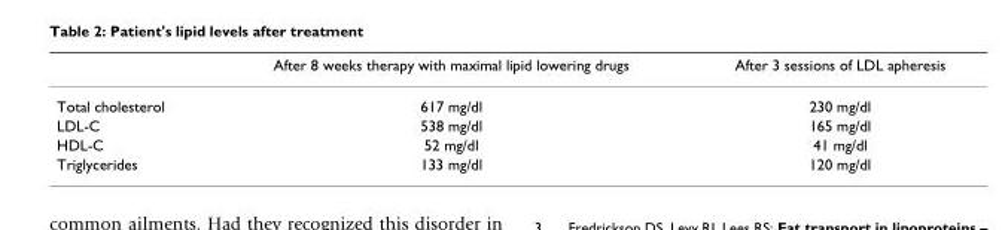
<table><thead><tr><td></td><td>After 8 weeks therapy with maximal lipid lowering drugs</td><td>After 3 sessions of LDL apheresis</td></tr></thead><tbody><tr><td>Total cholesterol</td><td>617 mg/dl</td><td>230 mg/dl</td></tr><tr><td>LDL-C</td><td>538 mg/dl</td><td>165 mg/dl</td></tr><tr><td>HDL-C</td><td>52 mg/dl</td><td>41 mg/dl</td></tr><tr><td>Triglycerides</td><td>133 mg/dl</td><td>120 mg/dl</td></tr></tbody></table>